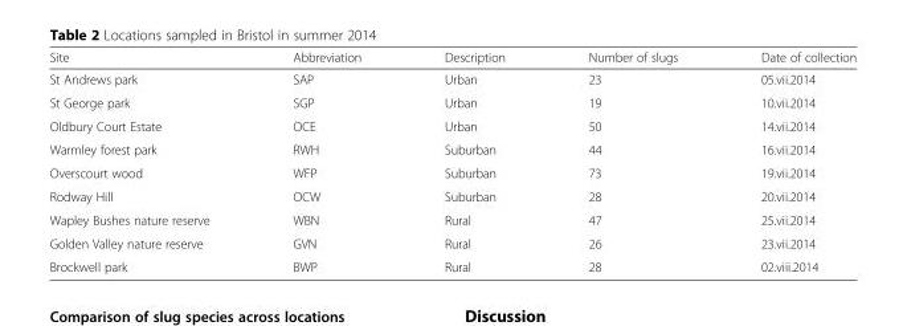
<table><thead><tr><td>Site</td><td>Abbreviation</td><td>Description</td><td>Number of slugs</td><td>Date of collection</td></tr></thead><tbody><tr><td>St Andrews park</td><td>SAP</td><td>Urban</td><td>23</td><td>05.vii.2014</td></tr><tr><td>St George park</td><td>SGP</td><td>Urban</td><td>19</td><td>10.vii.2014</td></tr><tr><td>Oldbury Court Estate</td><td>OCE</td><td>Urban</td><td>50</td><td>14.vii.2014</td></tr><tr><td>Warmley forest park</td><td>RWH</td><td>Suburban</td><td>44</td><td>16.vii.2014</td></tr><tr><td>Overscourt wood</td><td>WFP</td><td>Suburban</td><td>73</td><td>19.vii.2014</td></tr><tr><td>Rodway Hill</td><td>OCW</td><td>Suburban</td><td>28</td><td>20.vii.2014</td></tr><tr><td>Wapley Bushes nature reserve</td><td>WBN</td><td>Rural</td><td>47</td><td>25.vii.2014</td></tr><tr><td>Golden Valley nature reserve</td><td>GVN</td><td>Rural</td><td>26</td><td>23.vii.2014</td></tr><tr><td>Brockwell park</td><td>BWP</td><td>Rural</td><td>28</td><td>02.viii.2014</td></tr></tbody></table>